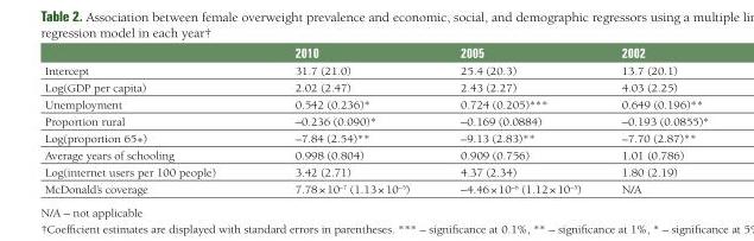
<table><thead><tr><td></td><td>2010</td><td>2005</td><td>2002</td></tr></thead><tbody><tr><td>Intercept</td><td>31.7 (21.0)</td><td>25.4 (20.3)</td><td>13.7 (20.1)</td></tr><tr><td>Log(GDP per capita)</td><td>2.02 (2.47)</td><td>2.43 (2.27)</td><td>4.03 (2.25)</td></tr><tr><td>Unemployment</td><td>0.542 (0.236)*</td><td>0.724 (0.205)***</td><td>0.649 (0.196)**</td></tr><tr><td>Proportion rural</td><td>–0.236 (0.090)*</td><td>–0.169 (0.0884)</td><td>–0.193 (0.0855)*</td></tr><tr><td>Log(proportion 65+)</td><td>–7.84 (2.54)**</td><td>–9.13 (2.83)**</td><td>–7.70 (2.87)**</td></tr><tr><td>Average years of schooling</td><td>0.998 (0.804)</td><td>0.909 (0.756)</td><td>1.01 (0.786)</td></tr><tr><td>Log(internet users per 100 people)</td><td>3.42 (2.71)</td><td>4.37 (2.34)</td><td>1.80 (2.19)</td></tr><tr><td>McDonald’s coverage</td><td>7.78 × 10<sup>–7</sup> (1.13 × 10<sup>–5</sup>)</td><td>–4.46 × 10<sup>–6</sup> (1.12 × 10<sup>–5</sup>)</td><td>N/A</td></tr></tbody></table>